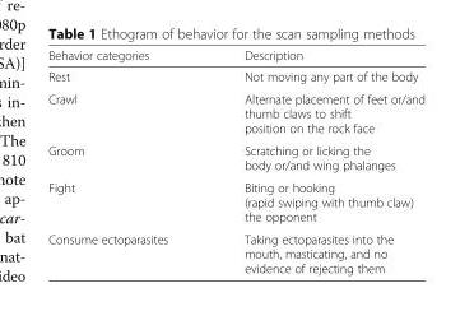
<table><thead><tr><td>Behavior categories</td><td>Description</td></tr></thead><tbody><tr><td>Rest</td><td>Not moving any part of the body</td></tr><tr><td>Crawl</td><td>Alternate placement of feet or/and thumb claws to shift position on the rock face</td></tr><tr><td>Groom</td><td>Scratching or licking the body or/and wing phalanges</td></tr><tr><td>Fight</td><td>Biting or hooking (rapid swiping with thumb claw) the opponent</td></tr><tr><td>Consume ectoparasites</td><td>Taking ectoparasites into the mouth, masticating, and no evidence of rejecting them</td></tr></tbody></table>